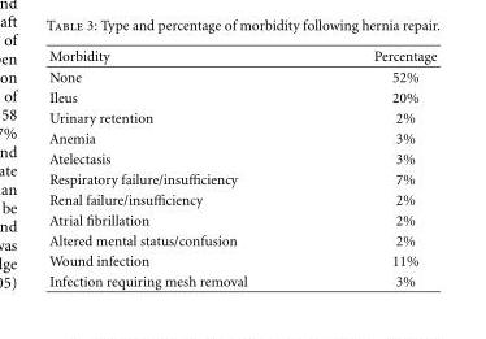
<table><thead><tr><td>Morbidity</td><td>Percentage</td></tr></thead><tbody><tr><td>None</td><td>52%</td></tr><tr><td>Ileus</td><td>20%</td></tr><tr><td>Urinary retention</td><td>2%</td></tr><tr><td>Anemia</td><td>3%</td></tr><tr><td>Atelectasis</td><td>3%</td></tr><tr><td>Respiratory failure/insufficiency</td><td>7%</td></tr><tr><td>Renal failure/insufficiency</td><td>2%</td></tr><tr><td>Atrial fibrillation</td><td>2%</td></tr><tr><td>Altered mental status/confusion</td><td>2%</td></tr><tr><td>Wound infection</td><td>11%</td></tr><tr><td>Infection requiring mesh removal</td><td>3%</td></tr></tbody></table>